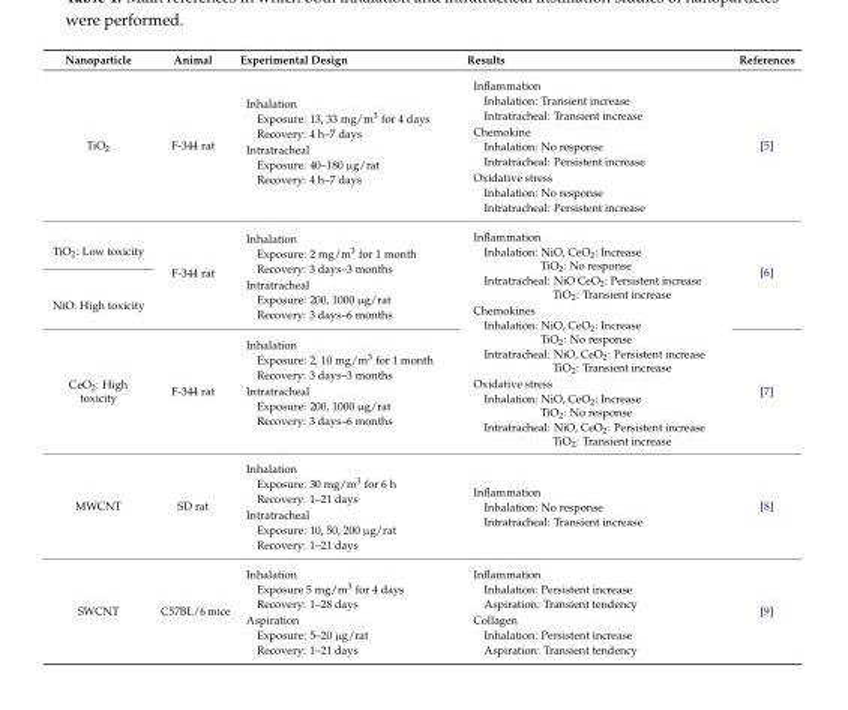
<table><thead><tr><td>Nanoparticle</td><td>Animal</td><td>Experimental Design</td><td>Results</td><td>References</td></tr></thead><tbody><tr><td>TiO<sub>2</sub></td><td>F-344 rat</td><td>Inhalation Exposure: 13, 33 mg/m<sup>3</sup> for 4 days Recovery: 4 h–7 days Intratracheal Exposure: 40–180 µg/rat Recovery: 4 h–7 days</td><td>Inflammation Inhalation: Transient increase Intratracheal: Transient increase Chemokine Inhalation: No response Intratracheal: Persistent increase Oxidative stress Inhalation: No response Intratracheal: Persistent increase</td><td>[5]</td></tr><tr><td>TiO<sub>2</sub>: Low toxicity</td><td rowspan="2">F-344 rat</td><td rowspan="2">Inhalation Exposure: 2 mg/m<sup>3</sup> for 1 month Recovery: 3 days–3 months Intratracheal Exposure: 200, 1000 µg/rat Recovery: 3 days–6 months</td><td rowspan="3">Inflammation Inhalation: NiO, CeO<sub>2</sub>: Increase TiO<sub>2</sub>: No response Intratracheal: NiO CeO<sub>2</sub>: Persistent increase TiO<sub>2</sub>: Transient increase Chemokines Inhalation: NiO, CeO<sub>2</sub>: Increase TiO<sub>2</sub>: No response Intratracheal: NiO, CeO<sub>2</sub>: Persistent increase TiO<sub>2</sub>: Transient increase Oxidative stress Inhalation: NiO, CeO<sub>2</sub>: Increase TiO<sub>2</sub>: No response Intratracheal: NiO, CeO<sub>2</sub>: Persistent increase TiO<sub>2</sub>: Transient increase</td><td rowspan="2">[6]</td></tr><tr><td>NiO: High toxicity</td></tr><tr><td>CeO<sub>2</sub>: High toxicity</td><td>F-344 rat</td><td>Inhalation Exposure: 2, 10 mg/m<sup>3</sup> for 1 month Recovery: 3 days–3 months Intratracheal Exposure: 200, 1000 µg/rat Recovery: 3 days–6 months</td><td>[7]</td></tr><tr><td>MWCNT</td><td>SD rat</td><td>Inhalation Exposure: 30 mg/m<sup>3</sup> for 6 h Recovery: 1–21 days Intratracheal Exposure: 10, 50, 200 µg/rat Recovery: 1–21 days</td><td>Inflammation Inhalation: No response Intratracheal: Transient increase</td><td>[8]</td></tr><tr><td>SWCNT</td><td>C57BL/6 mice</td><td>Inhalation Exposure 5 mg/m<sup>3</sup> for 4 days Recovery: 1–28 days Aspiration Exposure: 5–20 µg/rat Recovery: 1–21 days</td><td>Inflammation Inhalation: Persistent increase Aspiration: Transient tendency Collagen Inhalation: Persistent increase Aspiration: Transient tendency</td><td>[9]</td></tr></tbody></table>